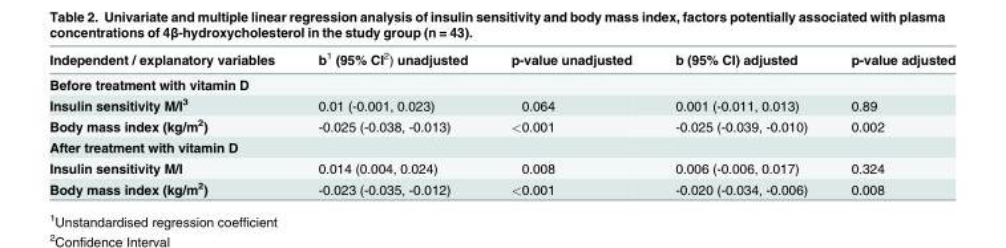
<table><thead><tr><td>Independent / explanatory variables</td><td>b<sup>1</sup> (95% CI<sup>2</sup>) unadjusted</td><td>p-value unadjusted</td><td>b (95% CI) adjusted</td><td>p-value adjusted</td></tr></thead><tbody><tr><td colspan="5">Before treatment with vitamin D</td></tr><tr><td>Insulin sensitivity M/I<sup>3</sup></td><td>0.01 (-0.001, 0.023)</td><td>0.064</td><td>0.001 (-0.011, 0.013)</td><td>0.89</td></tr><tr><td>Body mass index (kg/m<sup>2</sup>)</td><td>-0.025 (-0.038, -0.013)</td><td>&lt;0.001</td><td>-0.025 (-0.039, -0.010)</td><td>0.002</td></tr><tr><td colspan="5">After treatment with vitamin D</td></tr><tr><td>Insulin sensitivity M/I</td><td>0.014 (0.004, 0.024)</td><td>0.008</td><td>0.006 (-0.006, 0.017)</td><td>0.324</td></tr><tr><td>Body mass index (kg/m<sup>2</sup>)</td><td>-0.023 (-0.035, -0.012)</td><td>&lt;0.001</td><td>-0.020 (-0.034, -0.006)</td><td>0.008</td></tr></tbody></table>